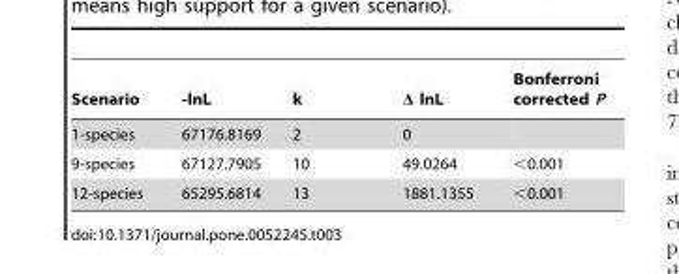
<table><thead><tr><td>Scenario</td><td>-lnL</td><td>k</td><td>Δ lnL</td><td>Bonferroni corrected P</td></tr></thead><tbody><tr><td>1-species</td><td>67176.8169</td><td>2</td><td>0</td><td></td></tr><tr><td>9-species</td><td>67127.7905</td><td>10</td><td>49.0264</td><td>&lt;0.001</td></tr><tr><td>12-species</td><td>65295.6814</td><td>13</td><td>1881.1355</td><td>&lt;0.001</td></tr></tbody></table>